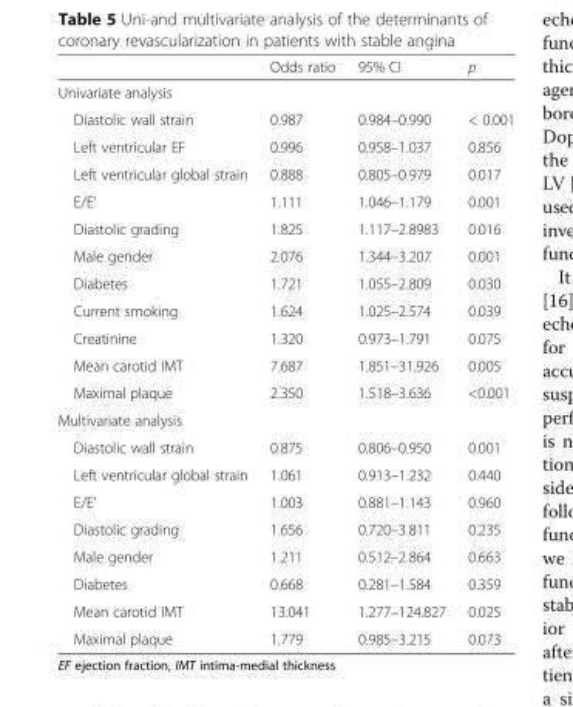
<table><thead><tr><td></td><td>Odds ratio</td><td>95% CI</td><td>p</td></tr></thead><tbody><tr><td colspan="4">Univariate analysis</td></tr><tr><td>Diastolic wall strain</td><td>0.987</td><td>0.984–0.990</td><td>&lt; 0.001</td></tr><tr><td>Left ventricular EF</td><td>0.996</td><td>0.958–1.037</td><td>0.856</td></tr><tr><td>Left ventricular global strain</td><td>0.888</td><td>0.805–0.979</td><td>0.017</td></tr><tr><td>E/E’</td><td>1.111</td><td>1.046–1.179</td><td>0.001</td></tr><tr><td>Diastolic grading</td><td>1.825</td><td>1.117–2.8983</td><td>0.016</td></tr><tr><td>Male gender</td><td>2.076</td><td>1.344–3.207</td><td>0.001</td></tr><tr><td>Diabetes</td><td>1.721</td><td>1.055–2.809</td><td>0.030</td></tr><tr><td>Current smoking</td><td>1.624</td><td>1.025–2.574</td><td>0.039</td></tr><tr><td>Creatinine</td><td>1.320</td><td>0.973–1.791</td><td>0.075</td></tr><tr><td>Mean carotid IMT</td><td>7.687</td><td>1.851–31.926</td><td>0.005</td></tr><tr><td>Maximal plaque</td><td>2.350</td><td>1.518–3.636</td><td>&lt;0.001</td></tr><tr><td colspan="4">Multivariate analysis</td></tr><tr><td>Diastolic wall strain</td><td>0.875</td><td>0.806–0.950</td><td>0.001</td></tr><tr><td>Left ventricular global strain</td><td>1.061</td><td>0.913–1.232</td><td>0.440</td></tr><tr><td>E/E’</td><td>1.003</td><td>0.881–1.143</td><td>0.960</td></tr><tr><td>Diastolic grading</td><td>1.656</td><td>0.720–3.811</td><td>0.235</td></tr><tr><td>Male gender</td><td>1.211</td><td>0.512–2.864</td><td>0.663</td></tr><tr><td>Diabetes</td><td>0.668</td><td>0.281–1.584</td><td>0.359</td></tr><tr><td>Mean carotid IMT</td><td>13.041</td><td>1.277–124.827</td><td>0.025</td></tr><tr><td>Maximal plaque</td><td>1.779</td><td>0.985–3.215</td><td>0.073</td></tr></tbody></table>